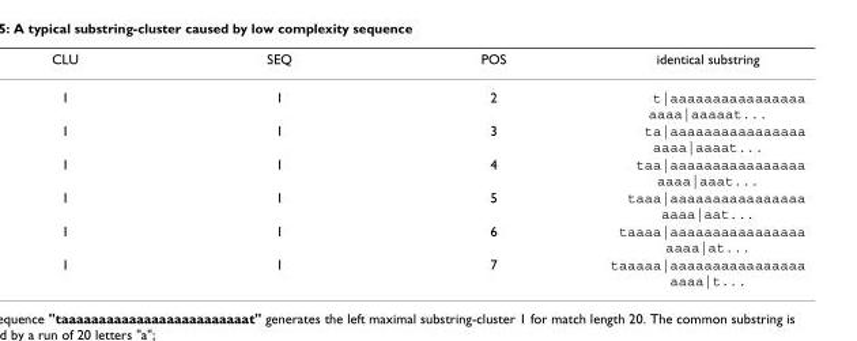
<table><thead><tr><td>CLU</td><td>SEQ</td><td>POS</td><td>identical substring</td></tr></thead><tbody><tr><td>1</td><td>1</td><td>2</td><td>t|aaaaaaaaaaaaaaaa aaaa|aaaaat...</td></tr><tr><td>1</td><td>1</td><td>3</td><td>ta|aaaaaaaaaaaaaaaa aaaa|aaaat...</td></tr><tr><td>1</td><td>1</td><td>4</td><td>taa|aaaaaaaaaaaaaaaa aaaa|aaat...</td></tr><tr><td>1</td><td>1</td><td>5</td><td>taaa|aaaaaaaaaaaaaaaa aaaa|aat...</td></tr><tr><td>1</td><td>1</td><td>6</td><td>taaaa|aaaaaaaaaaaaaaaa aaaa|at...</td></tr><tr><td>1</td><td>1</td><td>7</td><td>taaaaa|aaaaaaaaaaaaaaaa aaaa|t...</td></tr></tbody></table>